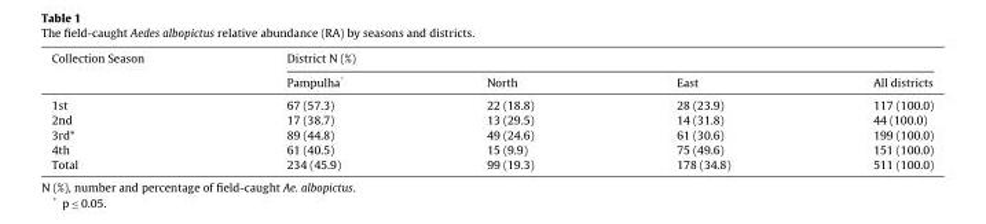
<table><thead><tr><td rowspan="2">Collection Season</td><td colspan="4">District N (%)</td></tr><tr><td>Pampulha*</td><td>North</td><td>East</td><td>All districts</td></tr></thead><tbody><tr><td>1st</td><td>67 (57.3)</td><td>22 (18.8)</td><td>28 (23.9)</td><td>117 (100.0)</td></tr><tr><td>2nd</td><td>17 (38.7)</td><td>13 (29.5)</td><td>14 (31.8)</td><td>44 (100.0)</td></tr><tr><td>3rd*</td><td>89 (44.8)</td><td>49 (24.6)</td><td>61 (30.6)</td><td>199 (100.0)</td></tr><tr><td>4th</td><td>61 (40.5)</td><td>15 (9.9)</td><td>75 (49.6)</td><td>151 (100.0)</td></tr><tr><td>Total</td><td>234 (45.9)</td><td>99 (19.3)</td><td>178 (34.8)</td><td>511 (100.0)</td></tr></tbody></table>